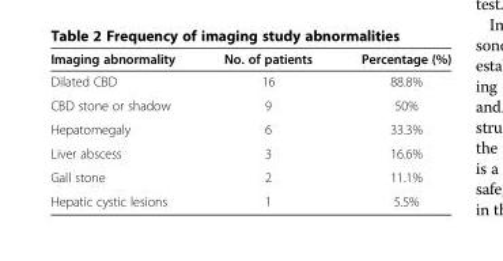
<table><thead><tr><td>Imaging abnormality</td><td>No. of patients</td><td>Percentage (%)</td></tr></thead><tbody><tr><td>Dilated CBD</td><td>16</td><td>88.8%</td></tr><tr><td>CBD stone or shadow</td><td>9</td><td>50%</td></tr><tr><td>Hepatomegaly</td><td>6</td><td>33.3%</td></tr><tr><td>Liver abscess</td><td>3</td><td>16.6%</td></tr><tr><td>Gall stone</td><td>2</td><td>11.1%</td></tr><tr><td>Hepatic cystic lesions</td><td>1</td><td>5.5%</td></tr></tbody></table>